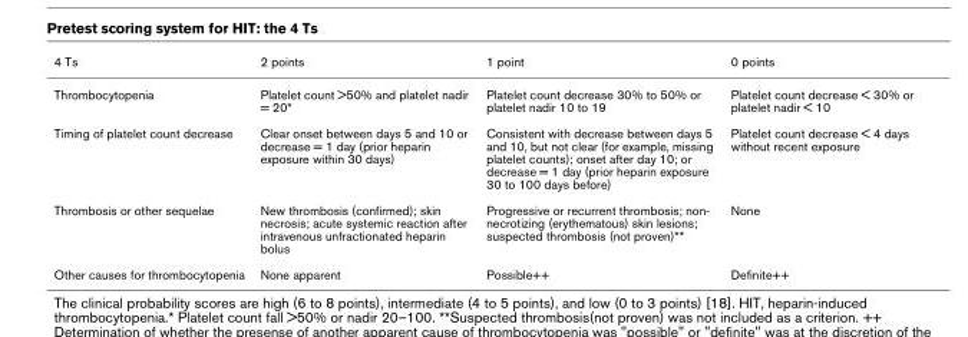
<table><thead><tr><td>4 Ts</td><td>2 points</td><td>1 point</td><td>0 points</td></tr></thead><tbody><tr><td>Thrombocytopenia</td><td>Platelet count &gt;50% and platelet nadir = 20*</td><td>Platelet count decrease 30% to 50% or platelet nadir 10 to 19</td><td>Platelet count decrease &lt; 30% or platelet nadir &lt; 10</td></tr><tr><td>Timing of platelet count decrease</td><td>Clear onset between days 5 and 10 or decrease = 1 day (prior heparin exposure within 30 days)</td><td>Consistent with decrease between days 5 and 10, but not clear (for example, missing platelet counts); onset after day 10; or decrease = 1 day (prior heparin exposure 30 to 100 days before)</td><td>Platelet count decrease &lt; 4 days without recent exposure</td></tr><tr><td>Thrombosis or other sequelae</td><td>New thrombosis (confirmed); skin necrosis; acute systemic reaction after intravenous unfractionated heparin bolus</td><td>Progressive or recurrent thrombosis; non- necrotizing (erythematous) skin lesions; suspected thrombosis (not proven)**</td><td>None</td></tr><tr><td>Other causes for thrombocytopenia</td><td>None apparent</td><td>Possible++</td><td>Definite++</td></tr></tbody></table>